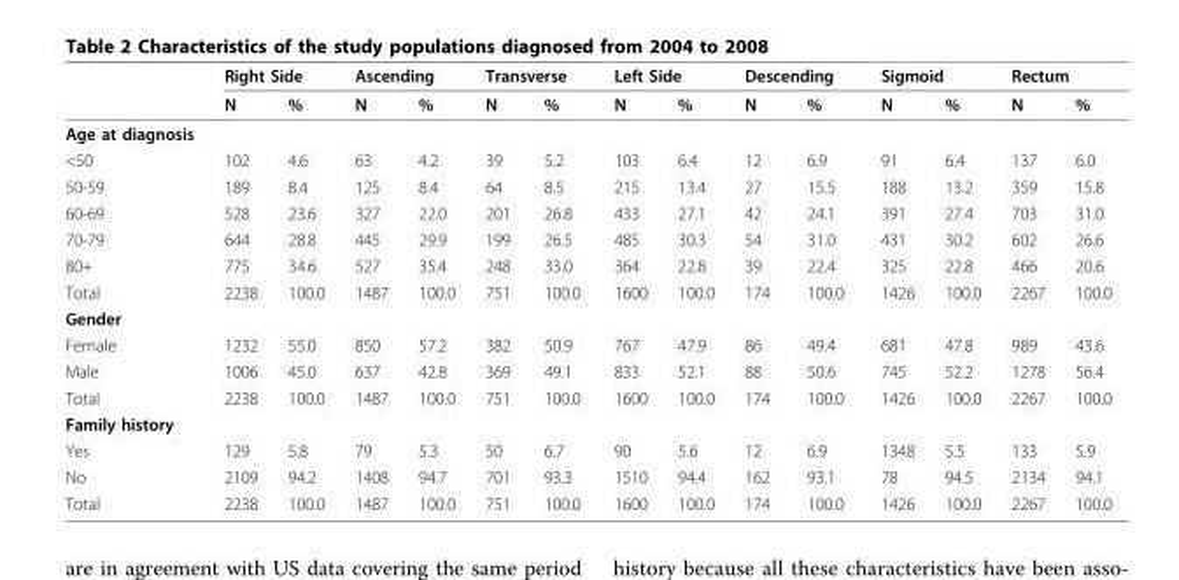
<table><thead><tr><td rowspan="2"></td><td colspan="2">Right Side</td><td colspan="2">Ascending</td><td colspan="2">Transverse</td><td colspan="2">Left Side</td><td colspan="2">Descending</td><td colspan="2">Sigmoid</td><td colspan="2">Rectum</td></tr><tr><td>N</td><td>%</td><td>N</td><td>%</td><td>N</td><td>%</td><td>N</td><td>%</td><td>N</td><td>%</td><td>N</td><td>%</td><td>N</td><td>%</td></tr></thead><tbody><tr><td colspan="15">Age at diagnosis</td></tr><tr><td>&lt;50</td><td>102</td><td>4.6</td><td>63</td><td>4.2</td><td>39</td><td>5.2</td><td>103</td><td>6.4</td><td>12</td><td>6.9</td><td>91</td><td>6.4</td><td>137</td><td>6.0</td></tr><tr><td>50-59</td><td>189</td><td>8.4</td><td>125</td><td>8.4</td><td>64</td><td>8.5</td><td>215</td><td>13.4</td><td>27</td><td>15.5</td><td>188</td><td>13.2</td><td>359</td><td>15.8</td></tr><tr><td>60-69</td><td>528</td><td>23.6</td><td>327</td><td>22.0</td><td>201</td><td>26.8</td><td>433</td><td>27.1</td><td>42</td><td>24.1</td><td>391</td><td>27.4</td><td>703</td><td>31.0</td></tr><tr><td>70-79</td><td>644</td><td>28.8</td><td>445</td><td>29.9</td><td>199</td><td>26.5</td><td>485</td><td>30.3</td><td>54</td><td>31.0</td><td>431</td><td>30.2</td><td>602</td><td>26.6</td></tr><tr><td>80+</td><td>775</td><td>34.6</td><td>527</td><td>35.4</td><td>248</td><td>33.0</td><td>364</td><td>22.8</td><td>39</td><td>22.4</td><td>325</td><td>22.8</td><td>466</td><td>20.6</td></tr><tr><td>Total</td><td>2238</td><td>100.0</td><td>1487</td><td>100.0</td><td>751</td><td>100.0</td><td>1600</td><td>100.0</td><td>174</td><td>100.0</td><td>1426</td><td>100.0</td><td>2267</td><td>100.0</td></tr><tr><td colspan="15">Gender</td></tr><tr><td>Female</td><td>1232</td><td>55.0</td><td>850</td><td>57.2</td><td>382</td><td>50.9</td><td>767</td><td>47.9</td><td>86</td><td>49.4</td><td>681</td><td>47.8</td><td>989</td><td>43.6</td></tr><tr><td>Male</td><td>1006</td><td>45.0</td><td>637</td><td>42.8</td><td>369</td><td>49.1</td><td>833</td><td>52.1</td><td>88</td><td>50.6</td><td>745</td><td>52.2</td><td>1278</td><td>56.4</td></tr><tr><td>Total</td><td>2238</td><td>100.0</td><td>1487</td><td>100.0</td><td>751</td><td>100.0</td><td>1600</td><td>100.0</td><td>174</td><td>100.0</td><td>1426</td><td>100.0</td><td>2267</td><td>100.0</td></tr><tr><td colspan="15">Family history</td></tr><tr><td>Yes</td><td>129</td><td>5.8</td><td>79</td><td>5.3</td><td>50</td><td>6.7</td><td>90</td><td>5.6</td><td>12</td><td>6.9</td><td>1348</td><td>5.5</td><td>133</td><td>5.9</td></tr><tr><td>No</td><td>2109</td><td>94.2</td><td>1408</td><td>94.7</td><td>701</td><td>93.3</td><td>1510</td><td>94.4</td><td>162</td><td>93.1</td><td>78</td><td>94.5</td><td>2134</td><td>94.1</td></tr><tr><td>Total</td><td>2238</td><td>100.0</td><td>1487</td><td>100.0</td><td>751</td><td>100.0</td><td>1600</td><td>100.0</td><td>174</td><td>100.0</td><td>1426</td><td>100.0</td><td>2267</td><td>100.0</td></tr></tbody></table>